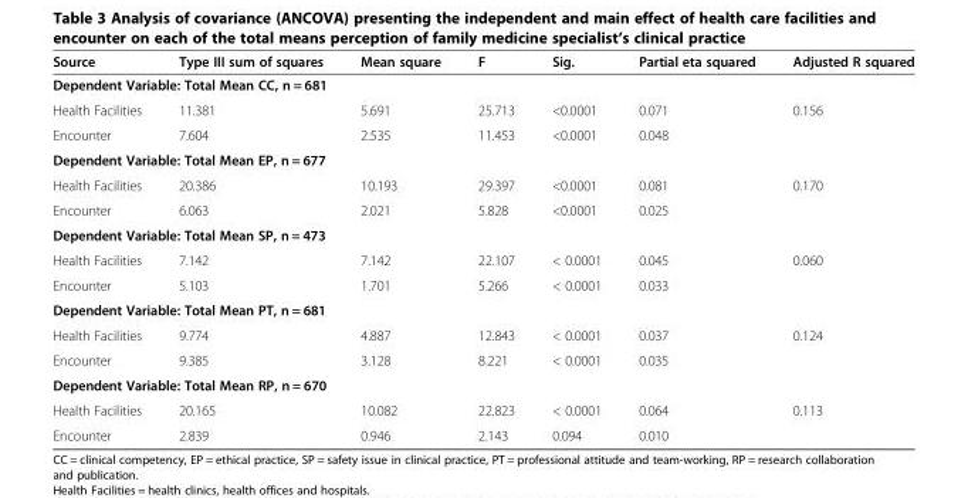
<table><thead><tr><td>Source</td><td>Type III sum of squares</td><td>Mean square</td><td>F</td><td>Sig.</td><td>Partial eta squared</td><td>Adjusted R squared</td></tr></thead><tbody><tr><td colspan="7">Dependent Variable: Total Mean CC, n = 681</td></tr><tr><td>Health Facilities</td><td>11.381</td><td>5.691</td><td>25.713</td><td>&lt;0.0001</td><td>0.071</td><td rowspan="2">0.156</td></tr><tr><td>Encounter</td><td>7.604</td><td>2.535</td><td>11.453</td><td>&lt;0.0001</td><td>0.048</td></tr><tr><td colspan="7">Dependent Variable: Total Mean EP, n = 677</td></tr><tr><td>Health Facilities</td><td>20.386</td><td>10.193</td><td>29.397</td><td>&lt;0.0001</td><td>0.081</td><td rowspan="2">0.170</td></tr><tr><td>Encounter</td><td>6.063</td><td>2.021</td><td>5.828</td><td>&lt;0.0001</td><td>0.025</td></tr><tr><td colspan="7">Dependent Variable: Total Mean SP, n = 473</td></tr><tr><td>Health Facilities</td><td>7.142</td><td>7.142</td><td>22.107</td><td>&lt; 0.0001</td><td>0.045</td><td rowspan="2">0.060</td></tr><tr><td>Encounter</td><td>5.103</td><td>1.701</td><td>5.266</td><td>&lt; 0.0001</td><td>0.033</td></tr><tr><td colspan="7">Dependent Variable: Total Mean PT, n = 681</td></tr><tr><td>Health Facilities</td><td>9.774</td><td>4.887</td><td>12.843</td><td>&lt; 0.0001</td><td>0.037</td><td rowspan="2">0.124</td></tr><tr><td>Encounter</td><td>9.385</td><td>3.128</td><td>8.221</td><td>&lt; 0.0001</td><td>0.035</td></tr><tr><td colspan="7">Dependent Variable: Total Mean RP, n = 670</td></tr><tr><td>Health Facilities</td><td>20.165</td><td>10.082</td><td>22.823</td><td>&lt; 0.0001</td><td>0.064</td><td rowspan="2">0.113</td></tr><tr><td>Encounter</td><td>2.839</td><td>0.946</td><td>2.143</td><td>0.094</td><td>0.010</td></tr></tbody></table>